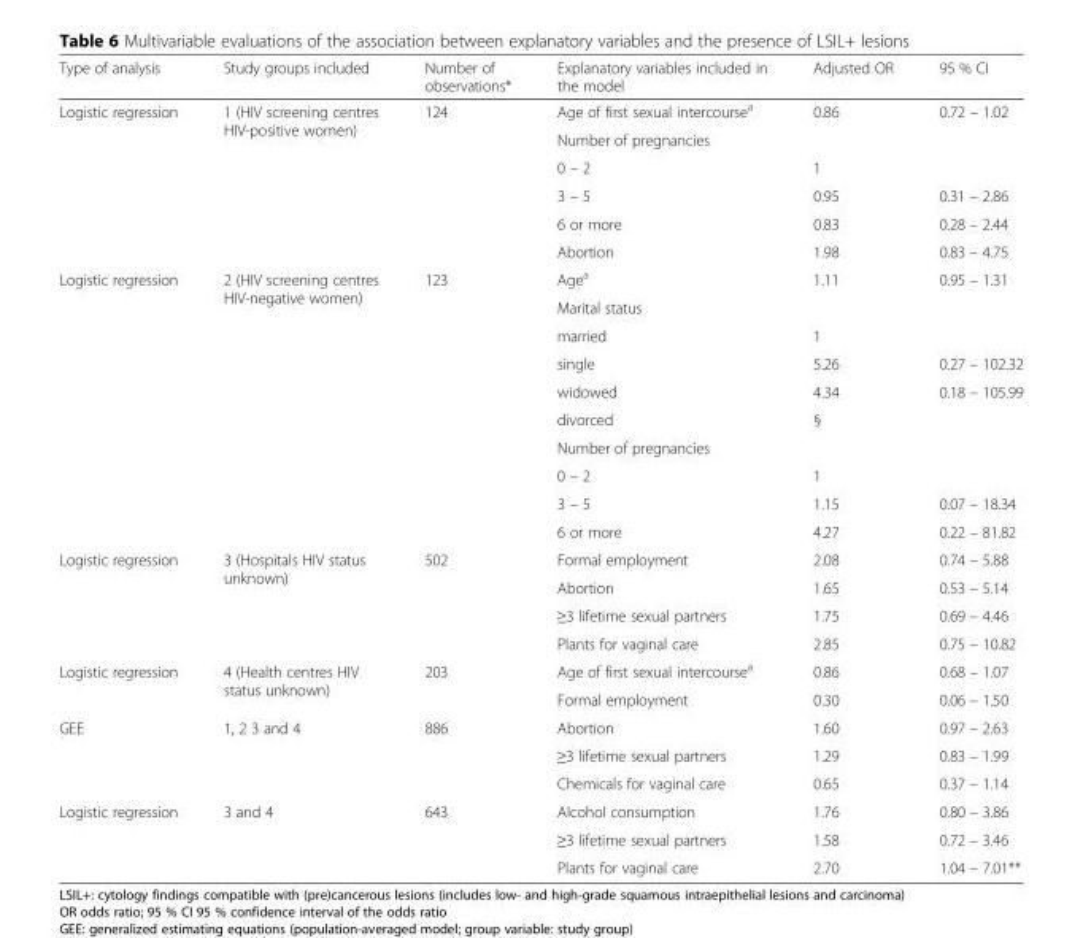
<table><thead><tr><td>Type of analysis</td><td>Study groups included</td><td>Number of observations*</td><td>Explanatory variables included in the model</td><td>Adjusted OR</td><td>95 % CI</td></tr></thead><tbody><tr><td rowspan="6">Logistic regression</td><td rowspan="6">1 (HIV screening centres HIV-positive women)</td><td rowspan="6">124</td><td>Age of first sexual intercourse<sup>a</sup></td><td>0.86</td><td>0.72 – 1.02</td></tr><tr><td>Number of pregnancies</td><td></td><td></td></tr><tr><td>0 – 2</td><td>1</td><td></td></tr><tr><td>3 – 5</td><td>0.95</td><td>0.31 – 2.86</td></tr><tr><td>6 or more</td><td>0.83</td><td>0.28 – 2.44</td></tr><tr><td>Abortion</td><td>1.98</td><td>0.83 – 4.75</td></tr><tr><td rowspan="10">Logistic regression</td><td rowspan="10">2 (HIV screening centres HIV-negative women)</td><td rowspan="10">123</td><td>Age<sup>a</sup></td><td>1.11</td><td>0.95 – 1.31</td></tr><tr><td>Marital status</td><td></td><td></td></tr><tr><td>married</td><td>1</td><td></td></tr><tr><td>single</td><td>5.26</td><td>0.27 – 102.32</td></tr><tr><td>widowed</td><td>4.34</td><td>0.18 – 105.99</td></tr><tr><td>divorced</td><td>§</td><td></td></tr><tr><td>Number of pregnancies</td><td></td><td></td></tr><tr><td>0 – 2</td><td>1</td><td></td></tr><tr><td>3 – 5</td><td>1.15</td><td>0.07 – 18.34</td></tr><tr><td>6 or more</td><td>4.27</td><td>0.22 – 81.82</td></tr><tr><td rowspan="4">Logistic regression</td><td rowspan="4">3 (Hospitals HIV status unknown)</td><td rowspan="4">502</td><td>Formal employment</td><td>2.08</td><td>0.74 – 5.88</td></tr><tr><td>Abortion</td><td>1.65</td><td>0.53 – 5.14</td></tr><tr><td>≥3 lifetime sexual partners</td><td>1.75</td><td>0.69 – 4.46</td></tr><tr><td>Plants for vaginal care</td><td>2.85</td><td>0.75 – 10.82</td></tr><tr><td rowspan="2">Logistic regression</td><td rowspan="2">4 (Health centres HIV status unknown)</td><td rowspan="2">203</td><td>Age of first sexual intercourse<sup>a</sup></td><td>0.86</td><td>0.68 – 1.07</td></tr><tr><td>Formal employment</td><td>0.30</td><td>0.06 – 1.50</td></tr><tr><td rowspan="3">GEE</td><td rowspan="3">1, 2 3 and 4</td><td rowspan="3">886</td><td>Abortion</td><td>1.60</td><td>0.97 – 2.63</td></tr><tr><td>≥3 lifetime sexual partners</td><td>1.29</td><td>0.83 – 1.99</td></tr><tr><td>Chemicals for vaginal care</td><td>0.65</td><td>0.37 – 1.14</td></tr><tr><td rowspan="3">Logistic regression</td><td rowspan="3">3 and 4</td><td rowspan="3">643</td><td>Alcohol consumption</td><td>1.76</td><td>0.80 – 3.86</td></tr><tr><td>≥3 lifetime sexual partners</td><td>1.58</td><td>0.72 – 3.46</td></tr><tr><td>Plants for vaginal care</td><td>2.70</td><td>1.04 – 7.01**</td></tr></tbody></table>